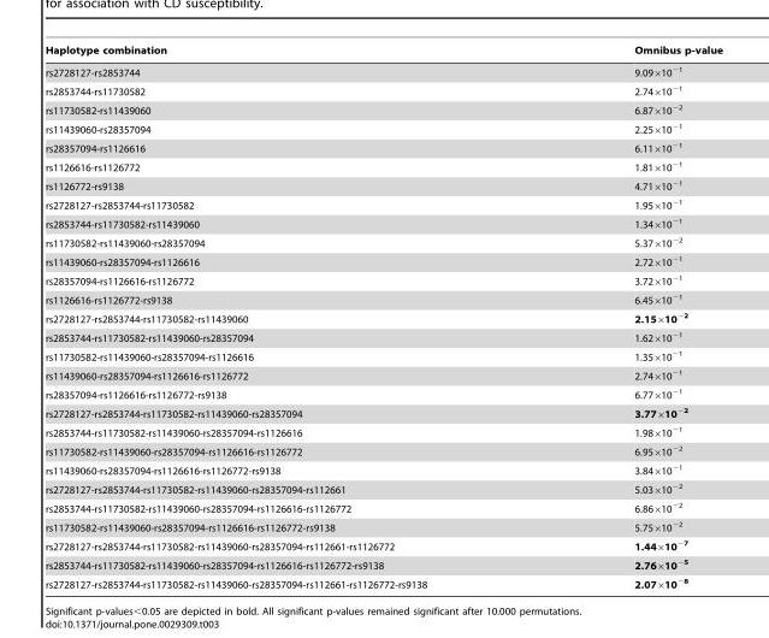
<table><thead><tr><td>Haplotype combination</td><td>Omnibus p-value</td></tr></thead><tbody><tr><td>rs2728127-rs2853744</td><td>9.09×10<sup>−1</sup></td></tr><tr><td>rs2853744-rs11730582</td><td>2.74×10<sup>−1</sup></td></tr><tr><td>rs11730582-rs11439060</td><td>6.87×10<sup>−2</sup></td></tr><tr><td>rs11439060-rs28357094</td><td>2.25×10<sup>−1</sup></td></tr><tr><td>rs28357094-rs1126616</td><td>6.11×10<sup>−1</sup></td></tr><tr><td>rs1126616-rs1126772</td><td>1.81×10<sup>−1</sup></td></tr><tr><td>rs1126772-rs9138</td><td>4.71×10<sup>−1</sup></td></tr><tr><td>rs2728127-rs2853744-rs11730582</td><td>1.95×10<sup>−1</sup></td></tr><tr><td>rs2853744-rs11730582-rs11439060</td><td>1.34×10<sup>−1</sup></td></tr><tr><td>rs11730582-rs11439060-rs28357094</td><td>5.37×10<sup>−2</sup></td></tr><tr><td>rs11439060-rs28357094-rs1126616</td><td>2.72×10<sup>−1</sup></td></tr><tr><td>rs28357094-rs1126616-rs1126772</td><td>3.72×10<sup>−1</sup></td></tr><tr><td>rs1126616-rs1126772-rs9138</td><td>6.45×10<sup>−1</sup></td></tr><tr><td>rs2728127-rs2853744-rs11730582-rs11439060</td><td>2.15×10<sup>−2</sup></td></tr><tr><td>rs2853744-rs11730582-rs11439060-rs28357094</td><td>1.62×10<sup>−1</sup></td></tr><tr><td>rs11730582-rs11439060-rs28357094-rs1126616</td><td>1.35×10<sup>−1</sup></td></tr><tr><td>rs11439060-rs28357094-rs1126616-rs1126772</td><td>2.74×10<sup>−1</sup></td></tr><tr><td>rs28357094-rs1126616-rs1126772-rs9138</td><td>6.77×10<sup>−1</sup></td></tr><tr><td>rs2728127-rs2853744-rs11730582-rs11439060-rs28357094</td><td>3.77×10<sup>−2</sup></td></tr><tr><td>rs2853744-rs11730582-rs11439060-rs28357094-rs1126616</td><td>1.98×10<sup>−1</sup></td></tr><tr><td>rs11730582-rs11439060-rs28357094-rs1126616-rs1126772</td><td>6.95×10<sup>−2</sup></td></tr><tr><td>rs11439060-rs28357094-rs1126616-rs1126772-rs9138</td><td>3.84×10<sup>−1</sup></td></tr><tr><td>rs2728127-rs2853744-rs11730582-rs11439060-rs28357094-rs112661</td><td>5.03×10<sup>−2</sup></td></tr><tr><td>rs2853744-rs11730582-rs11439060-rs28357094-rs1126616-rs1126772</td><td>6.86×10<sup>−2</sup></td></tr><tr><td>rs11730582-rs11439060-rs28357094-rs1126616-rs1126772-rs9138</td><td>5.75×10<sup>−2</sup></td></tr><tr><td>rs2728127-rs2853744-rs11730582-rs11439060-rs28357094-rs112661-rs1126772</td><td>1.44×10<sup>−7</sup></td></tr><tr><td>rs2853744-rs11730582-rs11439060-rs28357094-rs1126616-rs1126772-rs9138</td><td>2.76×10<sup>−5</sup></td></tr><tr><td>rs2728127-rs2853744-rs11730582-rs11439060-rs28357094-rs112661-rs1126772-rs9138</td><td>2.07×10<sup>−8</sup></td></tr></tbody></table>